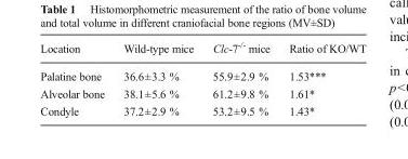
<table><thead><tr><td>Location</td><td>Wild-type mice</td><td>Clc-7<sup>-/-</sup> mice</td><td>Ratio of KO/WT</td></tr></thead><tbody><tr><td>Palatine bone</td><td>36.6±3.3 %</td><td>55.9±2.9 %</td><td>1.53***</td></tr><tr><td>Alveolar bone</td><td>38.1±5.6 %</td><td>61.2±9.8 %</td><td>1.61*</td></tr><tr><td>Condyle</td><td>37.2±2.9 %</td><td>53.2±9.5 %</td><td>1.43*</td></tr></tbody></table>